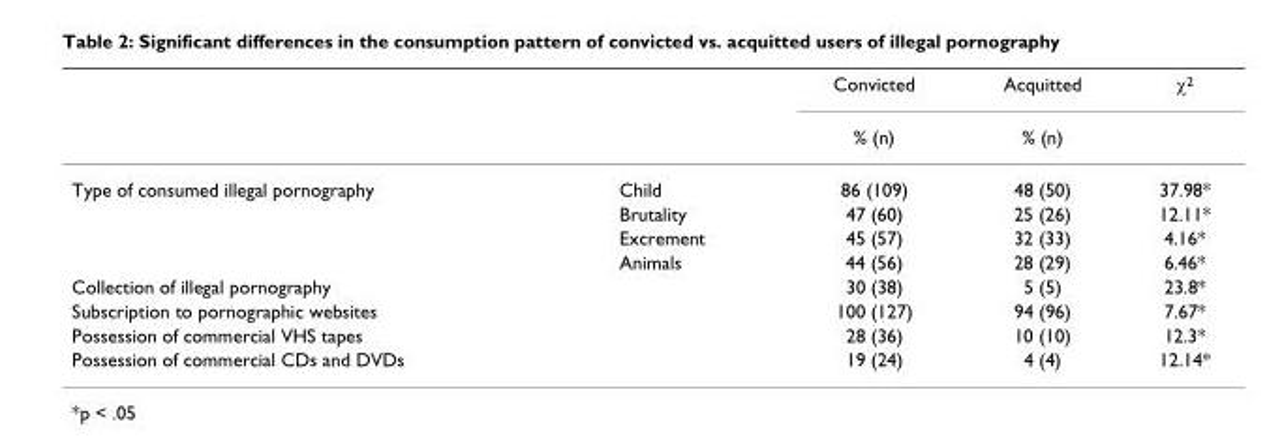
<table><thead><tr><td rowspan="2"></td><td rowspan="2"></td><td rowspan="2">Convicted % (n)</td><td rowspan="2">Acquitted % (n)</td><td rowspan="2">χ<sup>2</sup></td></tr><tr></tr></thead><tbody><tr><td rowspan="4">Type of consumed illegal pornography</td><td>Child</td><td>86 (109)</td><td>48 (50)</td><td>37.98*</td></tr><tr><td>Brutality</td><td>47 (60)</td><td>25 (26)</td><td>12.11*</td></tr><tr><td>Excrement</td><td>45 (57)</td><td>32 (33)</td><td>4.16*</td></tr><tr><td>Animals</td><td>44 (56)</td><td>28 (29)</td><td>6.46*</td></tr><tr><td colspan="2">Collection of illegal pornography</td><td>30 (38)</td><td>5 (5)</td><td>23.8*</td></tr><tr><td colspan="2">Subscription to pornographic websites</td><td>100 (127)</td><td>94 (96)</td><td>7.67*</td></tr><tr><td colspan="2">Possession of commercial VHS tapes</td><td>28 (36)</td><td>10 (10)</td><td>12.3*</td></tr><tr><td colspan="2">Possession of commercial CDs and DVDs</td><td>19 (24)</td><td>4 (4)</td><td>12.14*</td></tr></tbody></table>